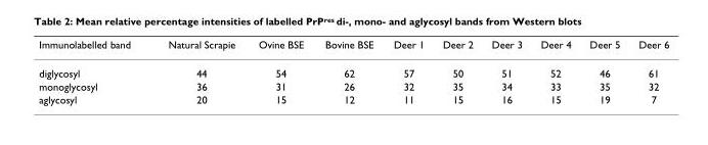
<table><thead><tr><td>Immunolabelled band</td><td>Natural Scrapie</td><td>Ovine BSE</td><td>Bovine BSE</td><td>Deer 1</td><td>Deer 2</td><td>Deer 3</td><td>Deer 4</td><td>Deer 5</td><td>Deer 6</td></tr></thead><tbody><tr><td>diglycosyl</td><td>44</td><td>54</td><td>62</td><td>57</td><td>50</td><td>51</td><td>52</td><td>46</td><td>61</td></tr><tr><td>monoglycosyl</td><td>36</td><td>31</td><td>26</td><td>32</td><td>35</td><td>34</td><td>33</td><td>35</td><td>32</td></tr><tr><td>aglycosyl</td><td>20</td><td>15</td><td>12</td><td>11</td><td>15</td><td>16</td><td>15</td><td>19</td><td>7</td></tr></tbody></table>